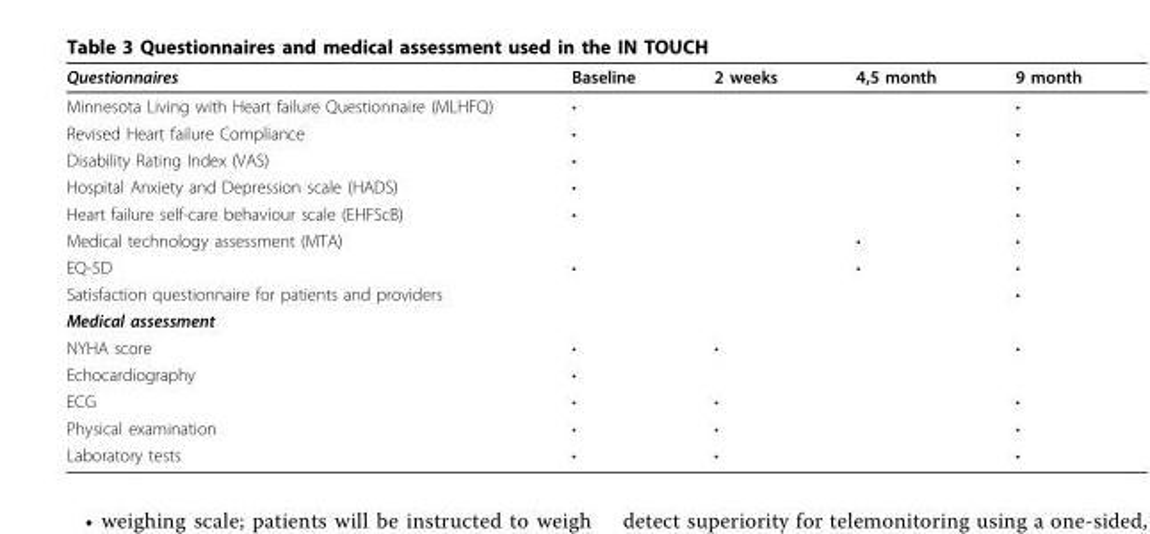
<table><thead><tr><td>Questionnaires</td><td>Baseline</td><td>2 weeks</td><td>4,5 month</td><td>9 month</td></tr></thead><tbody><tr><td>Minnesota Living with Heart failure Questionnaire (MLHFQ)</td><td>•</td><td></td><td></td><td>•</td></tr><tr><td>Revised Heart failure Compliance</td><td>•</td><td></td><td></td><td>•</td></tr><tr><td>Disability Rating Index (VAS)</td><td>•</td><td></td><td></td><td>•</td></tr><tr><td>Hospital Anxiety and Depression scale (HADS)</td><td>•</td><td></td><td></td><td>•</td></tr><tr><td>Heart failure self-care behaviour scale (EHFScB)</td><td>•</td><td></td><td></td><td>•</td></tr><tr><td>Medical technology assessment (MTA)</td><td></td><td></td><td>•</td><td>•</td></tr><tr><td>EQ-5D</td><td>•</td><td></td><td>•</td><td>•</td></tr><tr><td>Satisfaction questionnaire for patients and providers</td><td></td><td></td><td></td><td>•</td></tr><tr><td colspan="5">Medical assessment</td></tr><tr><td>NYHA score</td><td>•</td><td>•</td><td></td><td>•</td></tr><tr><td>Echocardiography</td><td>•</td><td></td><td></td><td></td></tr><tr><td>ECG</td><td>•</td><td>•</td><td></td><td>•</td></tr><tr><td>Physical examination</td><td>•</td><td>•</td><td></td><td>•</td></tr><tr><td>Laboratory tests</td><td>•</td><td>•</td><td></td><td>•</td></tr></tbody></table>